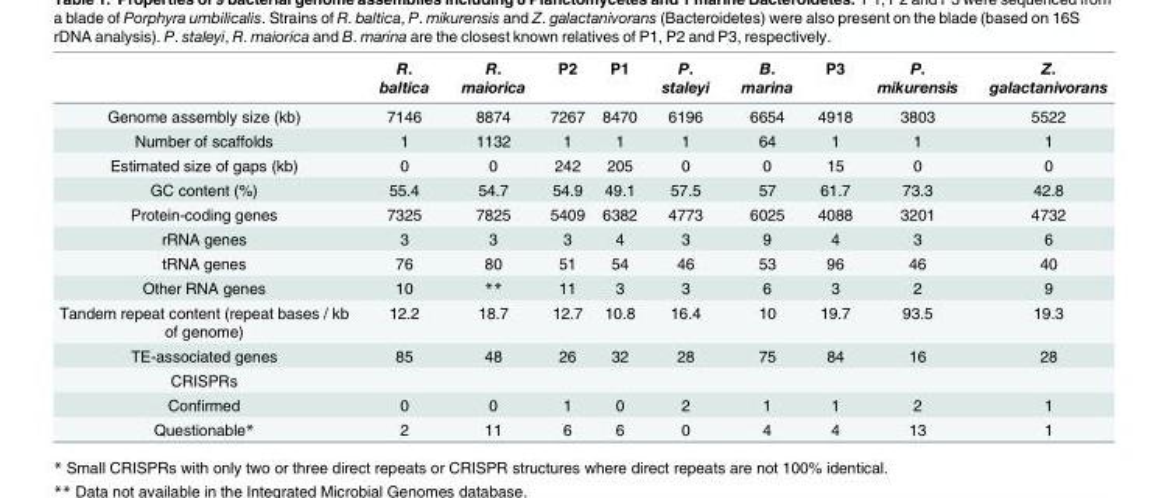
<table><thead><tr><td></td><td>R. baltica</td><td>R. maiorica</td><td>P2</td><td>P1</td><td>P. staleyi</td><td>B. marina</td><td>P3</td><td>P. mikurensis</td><td>Z. galactanivorans</td></tr></thead><tbody><tr><td>Genome assembly size (kb)</td><td>7146</td><td>8874</td><td>7267</td><td>8470</td><td>6196</td><td>6654</td><td>4918</td><td>3803</td><td>5522</td></tr><tr><td>Number of scaffolds</td><td>1</td><td>1132</td><td>1</td><td>1</td><td>1</td><td>64</td><td>1</td><td>1</td><td>1</td></tr><tr><td>Estimated size of gaps (kb)</td><td>0</td><td>0</td><td>242</td><td>205</td><td>0</td><td>0</td><td>15</td><td>0</td><td>0</td></tr><tr><td>GC content (%)</td><td>55.4</td><td>54.7</td><td>54.9</td><td>49.1</td><td>57.5</td><td>57</td><td>61.7</td><td>73.3</td><td>42.8</td></tr><tr><td>Protein-coding genes</td><td>7325</td><td>7825</td><td>5409</td><td>6382</td><td>4773</td><td>6025</td><td>4088</td><td>3201</td><td>4732</td></tr><tr><td>rRNA genes</td><td>3</td><td>3</td><td>3</td><td>4</td><td>3</td><td>9</td><td>4</td><td>3</td><td>6</td></tr><tr><td>tRNA genes</td><td>76</td><td>80</td><td>51</td><td>54</td><td>46</td><td>53</td><td>96</td><td>46</td><td>40</td></tr><tr><td>Other RNA genes</td><td>10</td><td>**</td><td>11</td><td>3</td><td>3</td><td>6</td><td>3</td><td>2</td><td>9</td></tr><tr><td>Tandem repeat content (repeat bases / kb of genome)</td><td>12.2</td><td>18.7</td><td>12.7</td><td>10.8</td><td>16.4</td><td>10</td><td>19.7</td><td>93.5</td><td>19.3</td></tr><tr><td>TE-associated genes</td><td>85</td><td>48</td><td>26</td><td>32</td><td>28</td><td>75</td><td>84</td><td>16</td><td>28</td></tr><tr><td colspan="10">CRISPRs</td></tr><tr><td>Confirmed</td><td>0</td><td>0</td><td>1</td><td>0</td><td>2</td><td>1</td><td>1</td><td>2</td><td>1</td></tr><tr><td>Questionable*</td><td>2</td><td>11</td><td>6</td><td>6</td><td>0</td><td>4</td><td>4</td><td>13</td><td>1</td></tr></tbody></table>